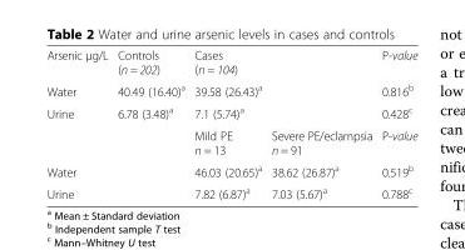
<table><tbody><tr><td>Arsenic μg/L</td><td>Controls (n = 202)</td><td colspan="2">Cases (n = 104)</td><td>P-value</td></tr><tr><td>Water</td><td>40.49 (16.40)<sup>a</sup></td><td colspan="2">39.58 (26.43)<sup>a</sup></td><td>0.816<sup>b</sup></td></tr><tr><td rowspan="2">Urine</td><td>6.78 (3.48)<sup>a</sup></td><td colspan="2">7.1 (5.74)<sup>a</sup></td><td>0.428<sup>c</sup></td></tr><tr><td></td><td>Mild PE n = 13</td><td>Severe PE/eclampsia n = 91</td><td>P-value</td></tr><tr><td>Water</td><td></td><td>46.03 (20.65)<sup>a</sup></td><td>38.62 (26.87)<sup>a</sup></td><td>0.519<sup>b</sup></td></tr><tr><td>Urine</td><td></td><td>7.82 (6.87)<sup>a</sup></td><td>7.03 (5.67)<sup>a</sup></td><td>0.788<sup>c</sup></td></tr></tbody></table>